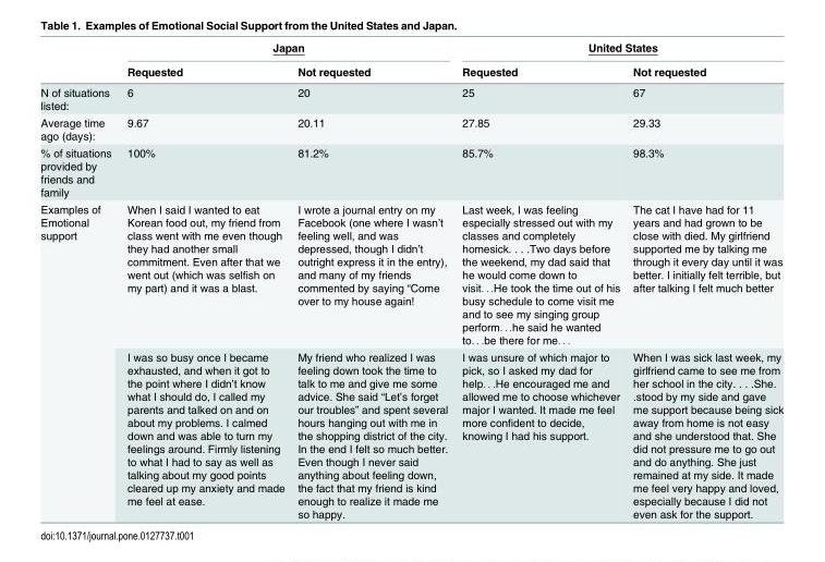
<table><thead><tr><td rowspan="2"></td><td colspan="2">Japan</td><td colspan="2">United States</td></tr><tr><td>Requested</td><td>Not requested</td><td>Requested</td><td>Not requested</td></tr></thead><tbody><tr><td>N of situations listed:</td><td>6</td><td>20</td><td>25</td><td>67</td></tr><tr><td>Average time ago (days):</td><td>9.67</td><td>20.11</td><td>27.85</td><td>29.33</td></tr><tr><td>% of situations provided by friends and family</td><td>100%</td><td>81.2%</td><td>85.7%</td><td>98.3%</td></tr><tr><td rowspan="2">Examples of Emotional support</td><td>When I said I wanted to eat Korean food out, my friend from class went with me even though they had another small commitment. Even after that we went out (which was selfish on my part) and it was a blast.</td><td>I wrote a journal entry on my Facebook (one where I wasn’t feeling well, and was depressed, though I didn’t outright express it in the entry), and many of my friends commented by saying “Come over to my house again!</td><td>Last week, I was feeling especially stressed out with my classes and completely homesick. . . .Two days before the weekend, my dad said that he would come down to visit. . .He took the time out of his busy schedule to come visit me and to see my singing group perform. . .he said he wanted to. . .be there for me. . .</td><td>The cat I have had for 11 years and had grown to be close with died. My girlfriend supported me by talking me through it every day until it was better. I initially felt terrible, but after talking I felt much better</td></tr><tr><td>I was so busy once I became exhausted, and when it got to the point where I didn’t know what I should do, I called my parents and talked on and on about my problems. I calmed down and was able to turn my feelings around. Firmly listening to what I had to say as well as talking about my good points cleared up my anxiety and made me feel at ease.</td><td>My friend who realized I was feeling down took the time to talk to me and give me some advice. She said “Let’s forget our troubles” and spent several hours hanging out with me in the shopping district of the city. In the end I felt so much better. Even though I never said anything about feeling down, the fact that my friend is kind enough to realize it made me so happy.</td><td>I was unsure of which major to pick, so I asked my dad for help. . .He encouraged me and allowed me to choose whichever major I wanted. It made me feel more confident to decide, knowing I had his support.</td><td>When I was sick last week, my girlfriend came to see me from her school in the city. . . .She. .stood by my side and gave me support because being sick away from home is not easy and she understood that. She did not pressure me to go out and do anything. She just remained at my side. It made me feel very happy and loved, especially because I did not even ask for the support.</td></tr></tbody></table>